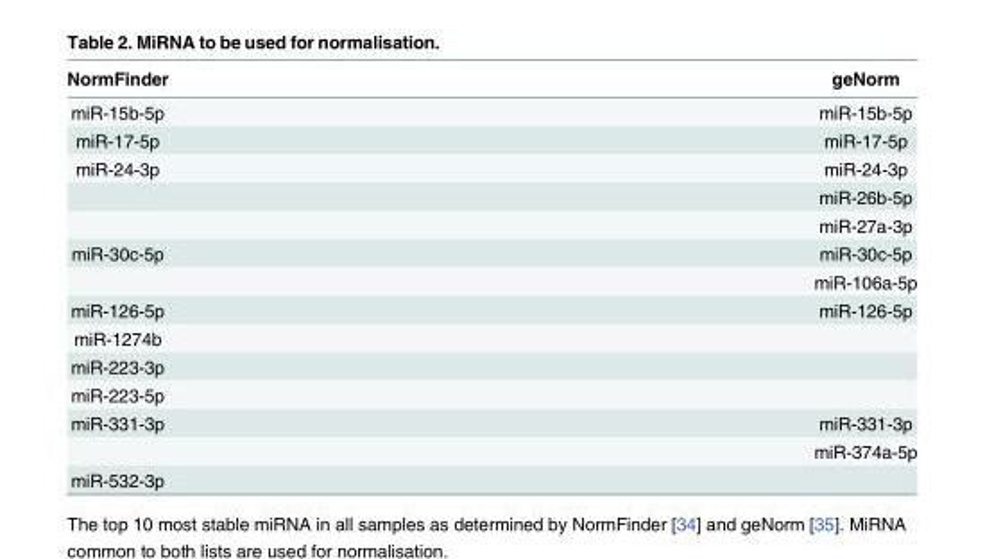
<table><thead><tr><td>NormFinder</td><td>geNorm</td></tr></thead><tbody><tr><td>miR-15b-5p</td><td>miR-15b-5p</td></tr><tr><td>miR-17-5p</td><td>miR-17-5p</td></tr><tr><td rowspan="3">miR-24-3p</td><td>miR-24-3p</td></tr><tr><td>miR-26b-5p</td></tr><tr><td>miR-27a-3p</td></tr><tr><td rowspan="2">miR-30c-5p</td><td>miR-30c-5p</td></tr><tr><td>miR-106a-5p</td></tr><tr><td>miR-126-5p</td><td>miR-126-5p</td></tr><tr><td colspan="2">miR-1274b</td></tr><tr><td colspan="2">miR-223-3p</td></tr><tr><td colspan="2">miR-223-5p</td></tr><tr><td rowspan="2">miR-331-3p</td><td>miR-331-3p</td></tr><tr><td>miR-374a-5p</td></tr><tr><td>miR-532-3p</td><td></td></tr></tbody></table>